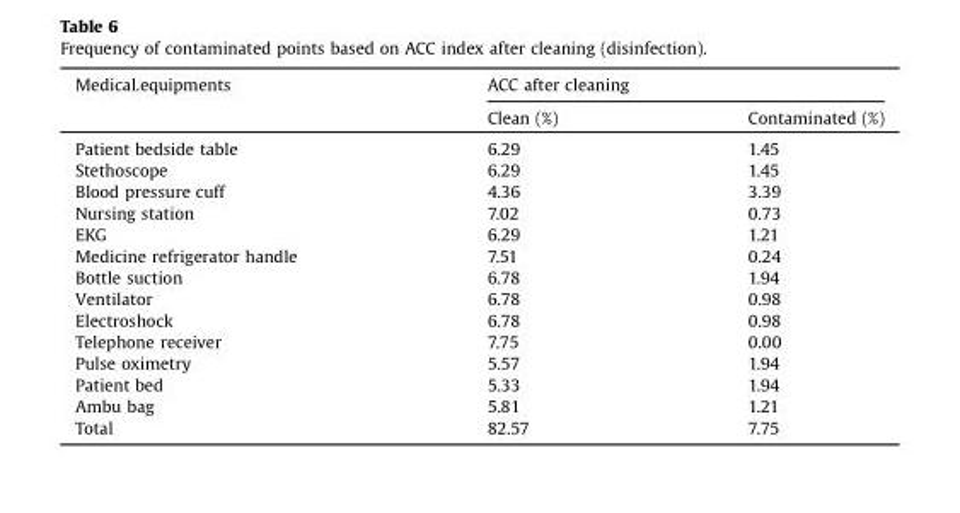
<table><thead><tr><td rowspan="2">Medical.equipments</td><td colspan="2">ACC after cleaning</td></tr><tr><td>Clean (%)</td><td>Contaminated (%)</td></tr></thead><tbody><tr><td>Patient bedside table</td><td>6.29</td><td>1.45</td></tr><tr><td>Stethoscope</td><td>6.29</td><td>1.45</td></tr><tr><td>Blood pressure cuff</td><td>4.36</td><td>3.39</td></tr><tr><td>Nursing station</td><td>7.02</td><td>0.73</td></tr><tr><td>EKG</td><td>6.29</td><td>1.21</td></tr><tr><td>Medicine refrigerator handle</td><td>7.51</td><td>0.24</td></tr><tr><td>Bottle suction</td><td>6.78</td><td>1.94</td></tr><tr><td>Ventilator</td><td>6.78</td><td>0.98</td></tr><tr><td>Electroshock</td><td>6.78</td><td>0.98</td></tr><tr><td>Telephone receiver</td><td>7.75</td><td>0.00</td></tr><tr><td>Pulse oximetry</td><td>5.57</td><td>1.94</td></tr><tr><td>Patient bed</td><td>5.33</td><td>1.94</td></tr><tr><td>Ambu bag</td><td>5.81</td><td>1.21</td></tr><tr><td>Total</td><td>82.57</td><td>7.75</td></tr></tbody></table>